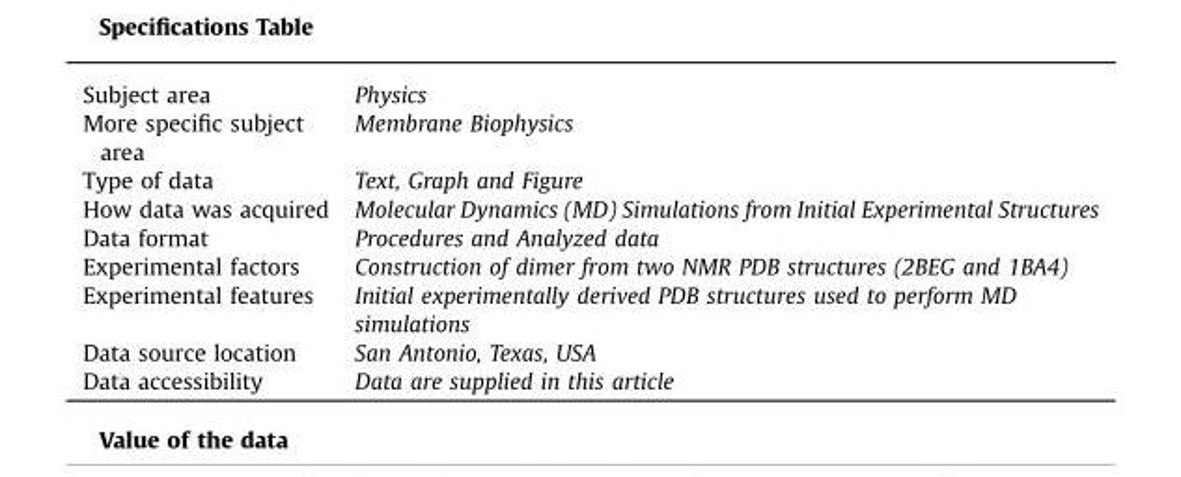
<table><tbody><tr><td>Subject area</td><td>Physics</td></tr><tr><td>More specific subject area</td><td>Membrane Biophysics</td></tr><tr><td>Type of data</td><td>Text, Graph and Figure</td></tr><tr><td>How data was acquired</td><td>Molecular Dynamics (MD) Simulations from Initial Experimental Structures</td></tr><tr><td>Data format</td><td>Procedures and Analyzed data</td></tr><tr><td>Experimental factors</td><td>Construction of dimer from two NMR PDB structures (2BEG and 1BA4)</td></tr><tr><td>Experimental features</td><td>Initial experimentally derived PDB structures used to perform MD simulations</td></tr><tr><td>Data source location</td><td>San Antonio, Texas, USA</td></tr><tr><td>Data accessibility</td><td>Data are supplied in this article</td></tr></tbody></table>